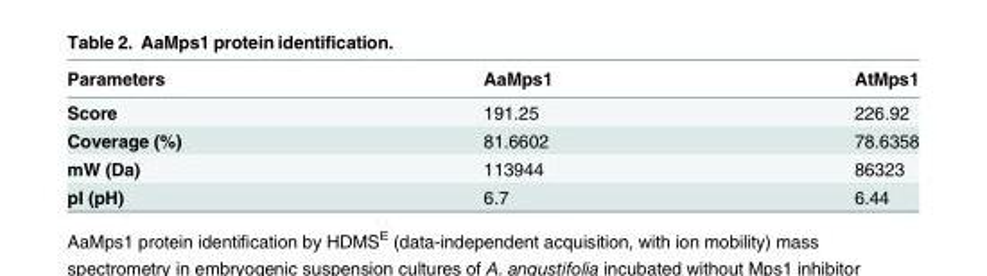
<table><thead><tr><td>Parameters</td><td>AaMps1</td><td>AtMps1</td></tr></thead><tbody><tr><td>Score</td><td>191.25</td><td>226.92</td></tr><tr><td>Coverage (%)</td><td>81.6602</td><td>78.6358</td></tr><tr><td>mW (Da)</td><td>113944</td><td>86323</td></tr><tr><td>pI (pH)</td><td>6.7</td><td>6.44</td></tr></tbody></table>